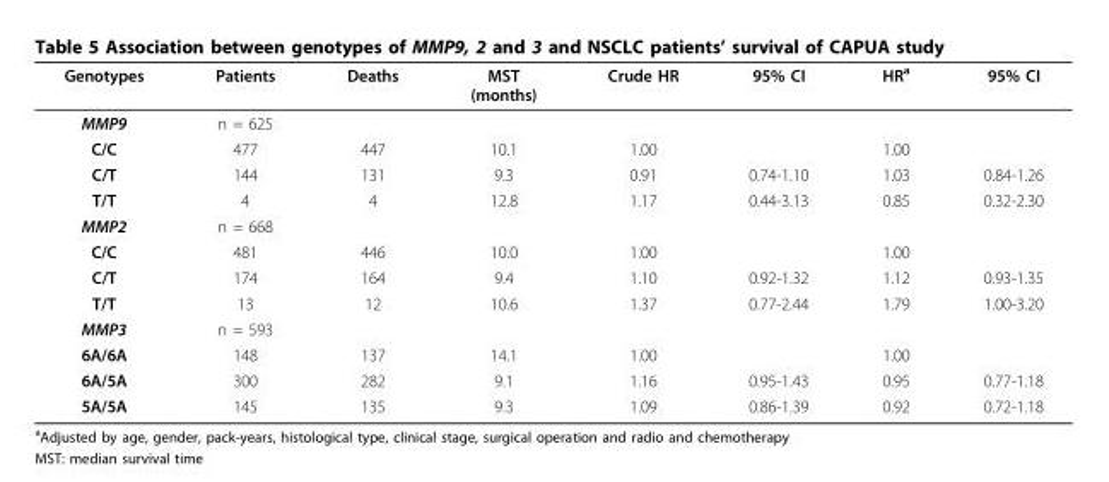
<table><thead><tr><td>Genotypes</td><td>Patients</td><td>Deaths</td><td>MST (months)</td><td>Crude HR</td><td>95% CI</td><td>HR<sup>a</sup></td><td>95% CI</td></tr></thead><tbody><tr><td>MMP9</td><td>n = 625</td><td></td><td></td><td></td><td></td><td></td><td></td></tr><tr><td>C/C</td><td>477</td><td>447</td><td>10.1</td><td>1.00</td><td></td><td>1.00</td><td></td></tr><tr><td>C/T</td><td>144</td><td>131</td><td>9.3</td><td>0.91</td><td>0.74-1.10</td><td>1.03</td><td>0.84-1.26</td></tr><tr><td>T/T</td><td>4</td><td>4</td><td>12.8</td><td>1.17</td><td>0.44-3.13</td><td>0.85</td><td>0.32-2.30</td></tr><tr><td>MMP2</td><td>n = 668</td><td></td><td></td><td></td><td></td><td></td><td></td></tr><tr><td>C/C</td><td>481</td><td>446</td><td>10.0</td><td>1.00</td><td></td><td>1.00</td><td></td></tr><tr><td>C/T</td><td>174</td><td>164</td><td>9.4</td><td>1.10</td><td>0.92-1.32</td><td>1.12</td><td>0.93-1.35</td></tr><tr><td>T/T</td><td>13</td><td>12</td><td>10.6</td><td>1.37</td><td>0.77-2.44</td><td>1.79</td><td>1.00-3.20</td></tr><tr><td>MMP3</td><td>n = 593</td><td></td><td></td><td></td><td></td><td></td><td></td></tr><tr><td>6A/6A</td><td>148</td><td>137</td><td>14.1</td><td>1.00</td><td></td><td>1.00</td><td></td></tr><tr><td>6A/5A</td><td>300</td><td>282</td><td>9.1</td><td>1.16</td><td>0.95-1.43</td><td>0.95</td><td>0.77-1.18</td></tr><tr><td>5A/5A</td><td>145</td><td>135</td><td>9.3</td><td>1.09</td><td>0.86-1.39</td><td>0.92</td><td>0.72-1.18</td></tr></tbody></table>